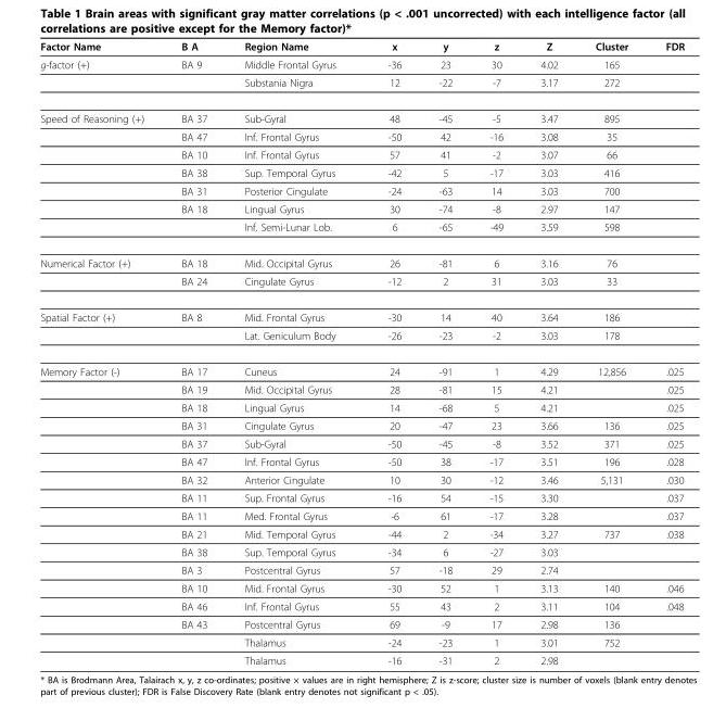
<table><thead><tr><td>Factor Name</td><td>B A</td><td>Region Name</td><td>x</td><td>y</td><td>z</td><td>Z</td><td>Cluster</td><td>FDR</td></tr></thead><tbody><tr><td rowspan="2">g-factor (+)</td><td>BA 9</td><td>Middle Frontal Gyrus</td><td>-36</td><td>23</td><td>30</td><td>4.02</td><td>165</td><td></td></tr><tr><td></td><td>Substania Nigra</td><td>12</td><td>-22</td><td>-7</td><td>3.17</td><td>272</td><td></td></tr><tr><td rowspan="7">Speed of Reasoning (+)</td><td>BA 37</td><td>Sub-Gyral</td><td>48</td><td>-45</td><td>-5</td><td>3.47</td><td>895</td><td></td></tr><tr><td>BA 47</td><td>Inf. Frontal Gyrus</td><td>-50</td><td>42</td><td>-16</td><td>3.08</td><td>35</td><td></td></tr><tr><td>BA 10</td><td>Inf. Frontal Gyrus</td><td>57</td><td>41</td><td>-2</td><td>3.07</td><td>66</td><td></td></tr><tr><td>BA 38</td><td>Sup. Temporal Gyrus</td><td>-42</td><td>5</td><td>-17</td><td>3.03</td><td>416</td><td></td></tr><tr><td>BA 31</td><td>Posterior Cingulate</td><td>-24</td><td>-63</td><td>14</td><td>3.03</td><td>700</td><td></td></tr><tr><td>BA 18</td><td>Lingual Gyrus</td><td>30</td><td>-74</td><td>-8</td><td>2.97</td><td>147</td><td></td></tr><tr><td></td><td>Inf. Semi-Lunar Lob.</td><td>6</td><td>-65</td><td>-49</td><td>3.59</td><td>598</td><td></td></tr><tr><td rowspan="2">Numerical Factor (+)</td><td>BA 18</td><td>Mid. Occipital Gyrus</td><td>26</td><td>-81</td><td>6</td><td>3.16</td><td>76</td><td></td></tr><tr><td>BA 24</td><td>Cingulate Gyrus</td><td>-12</td><td>2</td><td>31</td><td>3.03</td><td>33</td><td></td></tr><tr><td rowspan="2">Spatial Factor (+)</td><td>BA 8</td><td>Mid. Frontal Gyrus</td><td>-30</td><td>14</td><td>40</td><td>3.64</td><td>186</td><td></td></tr><tr><td></td><td>Lat. Geniculum Body</td><td>-26</td><td>-23</td><td>-2</td><td>3.03</td><td>178</td><td></td></tr><tr><td rowspan="17">Memory Factor (-)</td><td>BA 17</td><td>Cuneus</td><td>24</td><td>-91</td><td>1</td><td>4.29</td><td>12,856</td><td>.025</td></tr><tr><td>BA 19</td><td>Mid. Occipital Gyrus</td><td>28</td><td>-81</td><td>15</td><td>4.21</td><td></td><td>.025</td></tr><tr><td>BA 18</td><td>Lingual Gyrus</td><td>14</td><td>-68</td><td>5</td><td>4.21</td><td></td><td>.025</td></tr><tr><td>BA 31</td><td>Cingulate Gyrus</td><td>20</td><td>-47</td><td>23</td><td>3.66</td><td>136</td><td>.025</td></tr><tr><td>BA 37</td><td>Sub-Gyral</td><td>-50</td><td>-45</td><td>-8</td><td>3.52</td><td>371</td><td>.025</td></tr><tr><td>BA 47</td><td>Inf. Frontal Gyrus</td><td>-50</td><td>38</td><td>-17</td><td>3.51</td><td>196</td><td>.028</td></tr><tr><td>BA 32</td><td>Anterior Cingulate</td><td>10</td><td>30</td><td>-12</td><td>3.46</td><td>5,131</td><td>.030</td></tr><tr><td>BA 11</td><td>Sup. Frontal Gyrus</td><td>-16</td><td>54</td><td>-15</td><td>3.30</td><td></td><td>.037</td></tr><tr><td>BA 11</td><td>Med. Frontal Gyrus</td><td>-6</td><td>61</td><td>-17</td><td>3.28</td><td></td><td>.037</td></tr><tr><td>BA 21</td><td>Mid. Temporal Gyrus</td><td>-44</td><td>2</td><td>-34</td><td>3.27</td><td>737</td><td>.038</td></tr><tr><td>BA 38</td><td>Sup. Temporal Gyrus</td><td>-34</td><td>6</td><td>-27</td><td>3.03</td><td></td><td></td></tr><tr><td>BA 3</td><td>Postcentral Gyrus</td><td>57</td><td>-18</td><td>29</td><td>2.74</td><td></td><td></td></tr><tr><td>BA 10</td><td>Mid. Frontal Gyrus</td><td>-30</td><td>52</td><td>1</td><td>3.13</td><td>140</td><td>.046</td></tr><tr><td>BA 46</td><td>Inf. Frontal Gyrus</td><td>55</td><td>43</td><td>2</td><td>3.11</td><td>104</td><td>.048</td></tr><tr><td>BA 43</td><td>Postcentral Gyrus</td><td>69</td><td>-9</td><td>17</td><td>2.98</td><td>136</td><td></td></tr><tr><td></td><td>Thalamus</td><td>-24</td><td>-23</td><td>1</td><td>3.01</td><td>752</td><td></td></tr><tr><td></td><td>Thalamus</td><td>-16</td><td>-31</td><td>2</td><td>2.98</td><td></td><td></td></tr></tbody></table>